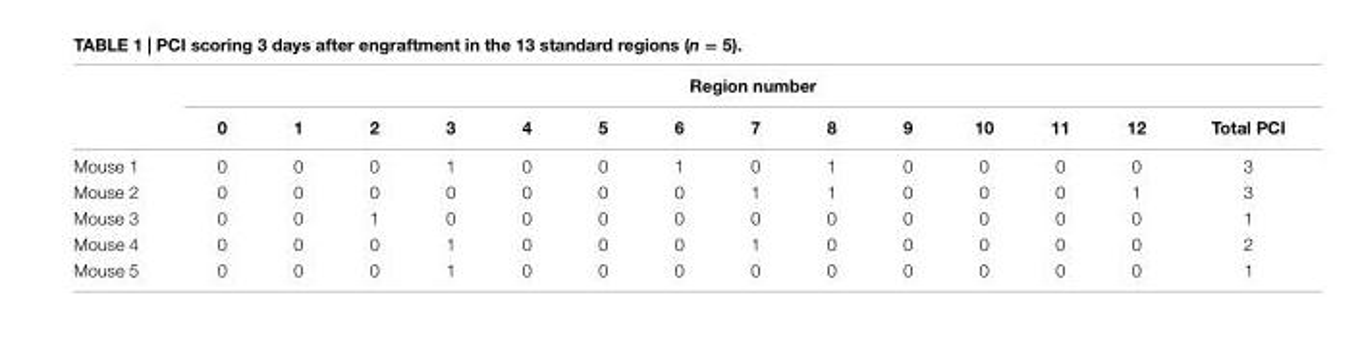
<table><thead><tr><td rowspan="2"></td><td colspan="14">region number</td></tr><tr><td>0</td><td>1</td><td>2</td><td>3</td><td>4</td><td>5</td><td>6</td><td>7</td><td>8</td><td>9</td><td>10</td><td>11</td><td>12</td><td>Total Pci</td></tr></thead><tbody><tr><td>Mouse 1</td><td>0</td><td>0</td><td>0</td><td>1</td><td>0</td><td>0</td><td>1</td><td>0</td><td>1</td><td>0</td><td>0</td><td>0</td><td>0</td><td>3</td></tr><tr><td>Mouse 2</td><td>0</td><td>0</td><td>0</td><td>0</td><td>0</td><td>0</td><td>0</td><td>1</td><td>1</td><td>0</td><td>0</td><td>0</td><td>1</td><td>3</td></tr><tr><td>Mouse 3</td><td>0</td><td>0</td><td>1</td><td>0</td><td>0</td><td>0</td><td>0</td><td>0</td><td>0</td><td>0</td><td>0</td><td>0</td><td>0</td><td>1</td></tr><tr><td>Mouse 4</td><td>0</td><td>0</td><td>0</td><td>1</td><td>0</td><td>0</td><td>0</td><td>1</td><td>0</td><td>0</td><td>0</td><td>0</td><td>0</td><td>2</td></tr><tr><td>Mouse 5</td><td>0</td><td>0</td><td>0</td><td>1</td><td>0</td><td>0</td><td>0</td><td>0</td><td>0</td><td>0</td><td>0</td><td>0</td><td>0</td><td>1</td></tr></tbody></table>